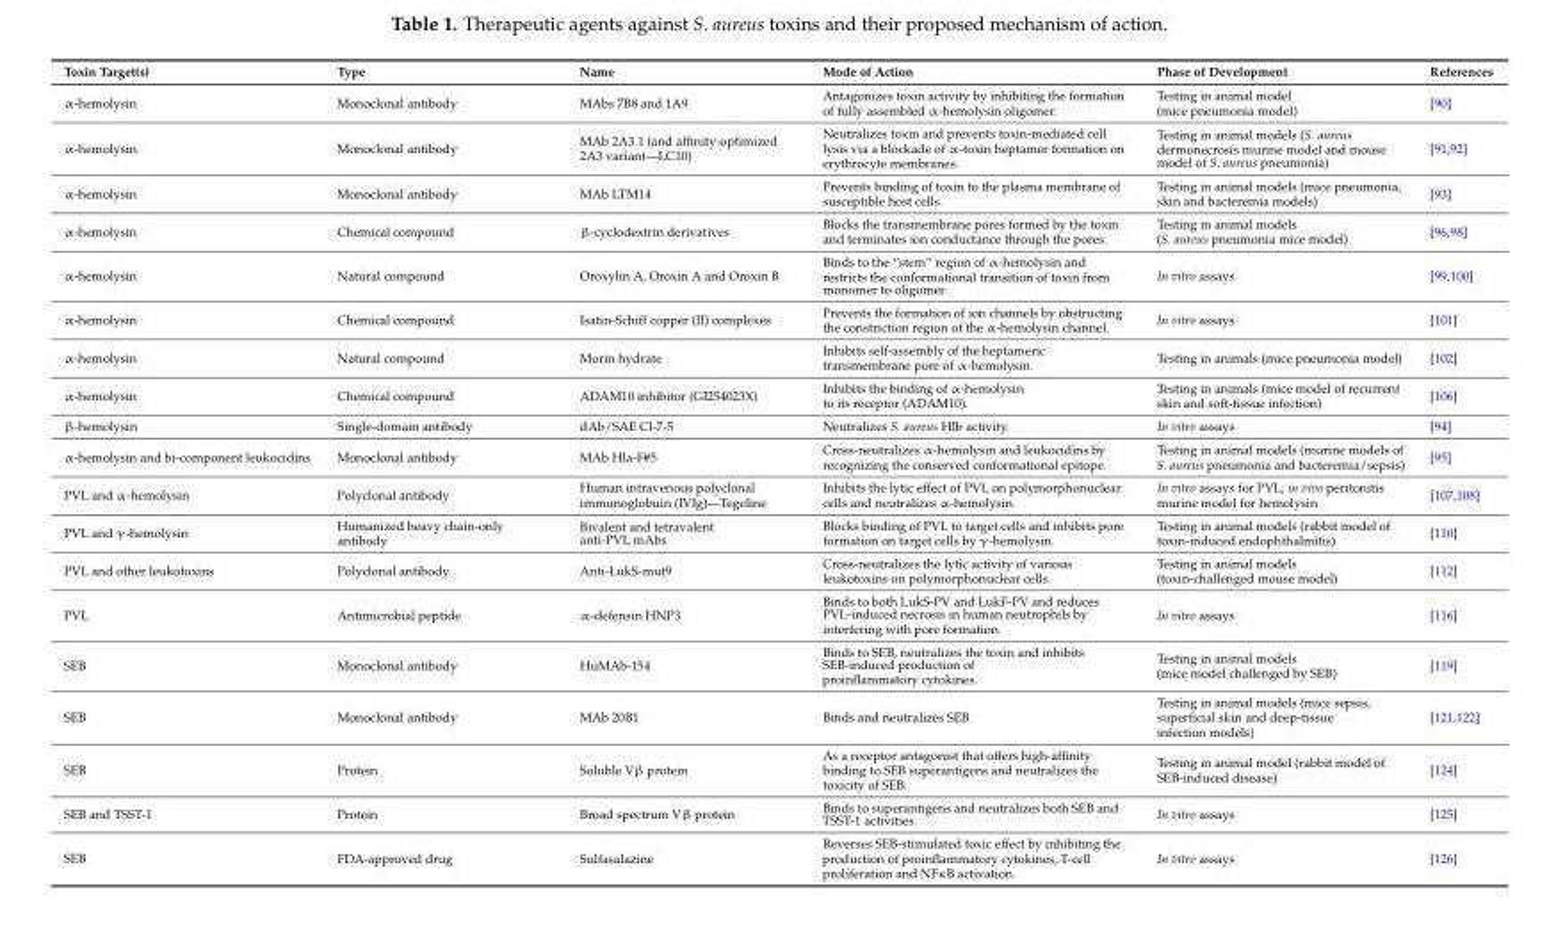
<table><thead><tr><td>Toxin Target(s)</td><td>Type</td><td>Name</td><td>Mode of Action</td><td>Phase of Development</td><td>References</td></tr></thead><tbody><tr><td>α-hemolysin</td><td>Monoclonal antibody</td><td>MAbs 7B8 and 1A9</td><td>Antagonizes toxin activity by inhibiting the formation of fully assembled α-hemolysin oligomer.</td><td>Testing in animal model (mice pneumonia model)</td><td>[90]</td></tr><tr><td>α-hemolysin</td><td>Monoclonal antibody</td><td>MAb 2A3.1 (and affinity-optimized 2A3 variant—LC10)</td><td>Neutralizes toxin and prevents toxin-mediated cell lysis via a blockade of α-toxin heptamer formation on erythrocyte membranes.</td><td>Testing in animal models (S. aureus dermonecrosis murine model and mouse model of S. aureus pneumonia)</td><td>[91,92]</td></tr><tr><td>α-hemolysin</td><td>Monoclonal antibody</td><td>MAb LTM14</td><td>Prevents binding of toxin to the plasma membrane of susceptible host cells.</td><td>Testing in animal models (mice pneumonia, skin and bacteremia models)</td><td>[93]</td></tr><tr><td>α-hemolysin</td><td>Chemical compound</td><td>β-cyclodextrin derivatives</td><td>Blocks the transmembrane pores formed by the toxin and terminates ion conductance through the pores.</td><td>Testing in animal models (S. aureus pneumonia mice model)</td><td>[96,98]</td></tr><tr><td>α-hemolysin</td><td>Natural compound</td><td>Oroxylin A, Oroxin A and Oroxin B</td><td>Binds to the “stem” region of α-hemolysin and restricts the conformational transition of toxin from monomer to oligomer.</td><td>In vitro assays</td><td>[99,100]</td></tr><tr><td>α-hemolysin</td><td>Chemical compound</td><td>Isatin-Schiff copper (II) complexes</td><td>Prevents the formation of ion channels by obstructing the constriction region of the α-hemolysin channel.</td><td>In vitro assays</td><td>[101]</td></tr><tr><td>α-hemolysin</td><td>Natural compound</td><td>Morin hydrate</td><td>Inhibits self-assembly of the heptameric transmembrane pore of α-hemolysin.</td><td>Testing in animals (mice pneumonia model)</td><td>[102]</td></tr><tr><td>α-hemolysin</td><td>Chemical compound</td><td>ADAM10 inhibitor (GI254023X)</td><td>Inhibits the binding of α-hemolysin to its receptor (ADAM10).</td><td>Testing in animals (mice model of recurrent skin and soft-tissue infection)</td><td>[106]</td></tr><tr><td>β-hemolysin</td><td>Single-domain antibody</td><td>dAb/SAE Cl-7-5</td><td>Neutralizes S. aureus Hlb activity.</td><td>In vitro assays</td><td>[94]</td></tr><tr><td>α-hemolysin and bi-component leukocidins</td><td>Monoclonal antibody</td><td>MAb Hla-F#5</td><td>Cross-neutralizes α-hemolysin and leukocidins by recognizing the conserved conformational epitope.</td><td>Testing in animal models (murine models of S. aureus pneumonia and bacteremia/sepsis)</td><td>[95]</td></tr><tr><td>PVL and α-hemolysin</td><td>Polyclonal antibody</td><td>Human intravenous polyclonal immunoglobuin (IVIg)—Tegeline</td><td>Inhibits the lytic effect of PVL on polymorphonuclear cells and neutralizes α-hemolysin.</td><td>In vitro assays for PVL; in vivo peritonitis murine model for hemolysin</td><td>[107,108]</td></tr><tr><td>PVL and γ-hemolysin</td><td>Humanized heavy chain-only antibody</td><td>Bivalent and tetravalent anti-PVL mAbs</td><td>Blocks binding of PVL to target cells and inhibits pore formation on target cells by γ-hemolysin.</td><td>Testing in animal models (rabbit model of toxin-induced endophthalmitis)</td><td>[110]</td></tr><tr><td>PVL and other leukotoxins</td><td>Polyclonal antibody</td><td>Anti-LukS-mut9</td><td>Cross-neutralizes the lytic activity of various leukotoxins on polymorphonuclear cells.</td><td>Testing in animal models (toxin-challenged mouse model)</td><td>[112]</td></tr><tr><td>PVL</td><td>Antimicrobial peptide</td><td>α-defensin HNP3</td><td>Binds to both LukS-PV and LukF-PV and reduces PVL-induced necrosis in human neutrophils by interfering with pore formation.</td><td>In vitro assays</td><td>[116]</td></tr><tr><td>SEB</td><td>Monoclonal antibody</td><td>HuMAb-154</td><td>Binds to SEB, neutralizes the toxin and inhibits SEB-induced production of proinflammatory cytokines.</td><td>Testing in animal models (mice model challenged by SEB)</td><td>[119]</td></tr><tr><td>SEB</td><td>Monoclonal antibody</td><td>MAb 20B1</td><td>Binds and neutralizes SEB.</td><td>Testing in animal models (mice sepsis, superficial skin and deep-tissue infection models)</td><td>[121,122]</td></tr><tr><td>SEB</td><td>Protein</td><td>Soluble Vβ protein</td><td>As a receptor antagonist that offers high-affinity binding to SEB superantigens and neutralizes the toxicity of SEB.</td><td>Testing in animal model (rabbit model of SEB-induced disease)</td><td>[124]</td></tr><tr><td>SEB and TSST-1</td><td>Protein</td><td>Broad spectrum Vβ protein</td><td>Binds to superantigens and neutralizes both SEB and TSST-1 activities.</td><td>In vitro assays</td><td>[125]</td></tr><tr><td>SEB</td><td>FDA-approved drug</td><td>Sulfasalazine</td><td>Reverses SEB-stimulated toxic effect by inhibiting the production of proinflammatory cytokines, T-cell proliferation and NFκB activation.</td><td>In vitro assays</td><td>[126]</td></tr></tbody></table>